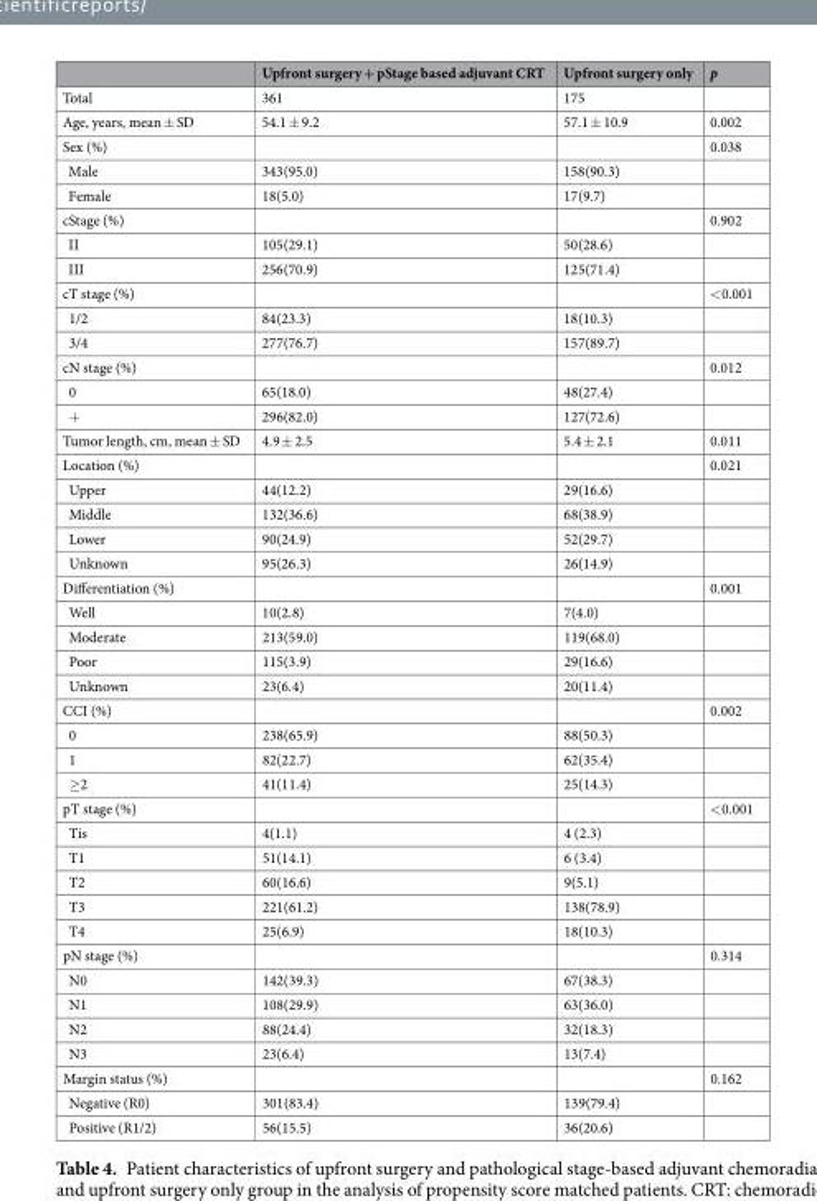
<table><thead><tr><td></td><td>Upfront surgery + pStage based adjuvant CRT</td><td>Upfront surgery only</td><td>p</td></tr></thead><tbody><tr><td>Total</td><td>361</td><td>175</td><td></td></tr><tr><td>Age, years, mean ± SD</td><td>54.1 ± 9.2</td><td>57.1 ± 10.9</td><td>0.002</td></tr><tr><td>Sex (%)</td><td></td><td></td><td>0.038</td></tr><tr><td>Male</td><td>343(95.0)</td><td>158(90.3)</td><td></td></tr><tr><td>Female</td><td>18(5.0)</td><td>17(9.7)</td><td></td></tr><tr><td>cStage (%)</td><td></td><td></td><td>0.902</td></tr><tr><td>II</td><td>105(29.1)</td><td>50(28.6)</td><td></td></tr><tr><td>III</td><td>256(70.9)</td><td>125(71.4)</td><td></td></tr><tr><td>cT stage (%)</td><td></td><td></td><td>&lt;0.001</td></tr><tr><td>1/2</td><td>84(23.3)</td><td>18(10.3)</td><td></td></tr><tr><td>3/4</td><td>277(76.7)</td><td>157(89.7)</td><td></td></tr><tr><td>cN stage (%)</td><td></td><td></td><td>0.012</td></tr><tr><td>0</td><td>65(18.0)</td><td>48(27.4)</td><td></td></tr><tr><td>+</td><td>296(82.0)</td><td>127(72.6)</td><td></td></tr><tr><td>Tumor length, cm, mean ± SD</td><td>4.9 ± 2.5</td><td>5.4 ± 2.1</td><td>0.011</td></tr><tr><td>Location (%)</td><td></td><td></td><td>0.021</td></tr><tr><td>Upper</td><td>44(12.2)</td><td>29(16.6)</td><td></td></tr><tr><td>Middle</td><td>132(36.6)</td><td>68(38.9)</td><td></td></tr><tr><td>Lower</td><td>90(24.9)</td><td>52(29.7)</td><td></td></tr><tr><td>Unknown</td><td>95(26.3)</td><td>26(14.9)</td><td></td></tr><tr><td>Differentiation (%)</td><td></td><td></td><td>0.001</td></tr><tr><td>Well</td><td>10(2.8)</td><td>7(4.0)</td><td></td></tr><tr><td>Moderate</td><td>213(59.0)</td><td>119(68.0)</td><td></td></tr><tr><td>Poor</td><td>115(3.9)</td><td>29(16.6)</td><td></td></tr><tr><td>Unknown</td><td>23(6.4)</td><td>20(11.4)</td><td></td></tr><tr><td>CCI (%)</td><td></td><td></td><td>0.002</td></tr><tr><td>0</td><td>238(65.9)</td><td>88(50.3)</td><td></td></tr><tr><td>1</td><td>82(22.7)</td><td>62(35.4)</td><td></td></tr><tr><td>≥2</td><td>41(11.4)</td><td>25(14.3)</td><td></td></tr><tr><td>pT stage (%)</td><td></td><td></td><td>&lt;0.001</td></tr><tr><td>Tis</td><td>4(1.1)</td><td>4 (2.3)</td><td></td></tr><tr><td>T1</td><td>51(14.1)</td><td>6 (3.4)</td><td></td></tr><tr><td>T2</td><td>60(16.6)</td><td>9(5.1)</td><td></td></tr><tr><td>T3</td><td>221(61.2)</td><td>138(78.9)</td><td></td></tr><tr><td>T4</td><td>25(6.9)</td><td>18(10.3)</td><td></td></tr><tr><td>pN stage (%)</td><td></td><td></td><td>0.314</td></tr><tr><td>N0</td><td>142(39.3)</td><td>67(38.3)</td><td></td></tr><tr><td>N1</td><td>108(29.9)</td><td>63(36.0)</td><td></td></tr><tr><td>N2</td><td>88(24.4)</td><td>32(18.3)</td><td></td></tr><tr><td>N3</td><td>23(6.4)</td><td>13(7.4)</td><td></td></tr><tr><td>Margin status (%)</td><td></td><td></td><td>0.162</td></tr><tr><td>Negative (R0)</td><td>301(83.4)</td><td>139(79.4)</td><td></td></tr><tr><td>Positive (R1/2)</td><td>56(15.5)</td><td>36(20.6)</td><td></td></tr></tbody></table>